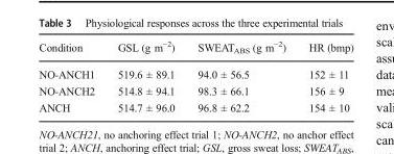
<table><thead><tr><td>Condition</td><td>GSL (g m<sup>−2</sup>)</td><td>SWEAT<sub>ABS</sub> (g m<sup>−2</sup>)</td><td>HR (bmp)</td></tr></thead><tbody><tr><td>NO-ANCH1</td><td>519.6 ± 89.1</td><td>94.0 ± 56.5</td><td>152 ± 11</td></tr><tr><td>NO-ANCH2</td><td>514.8 ± 94.1</td><td>98.3 ± 66.1</td><td>156 ± 9</td></tr><tr><td>ANCH</td><td>514.7 ± 96.0</td><td>96.8 ± 62.2</td><td>154 ± 10</td></tr></tbody></table>